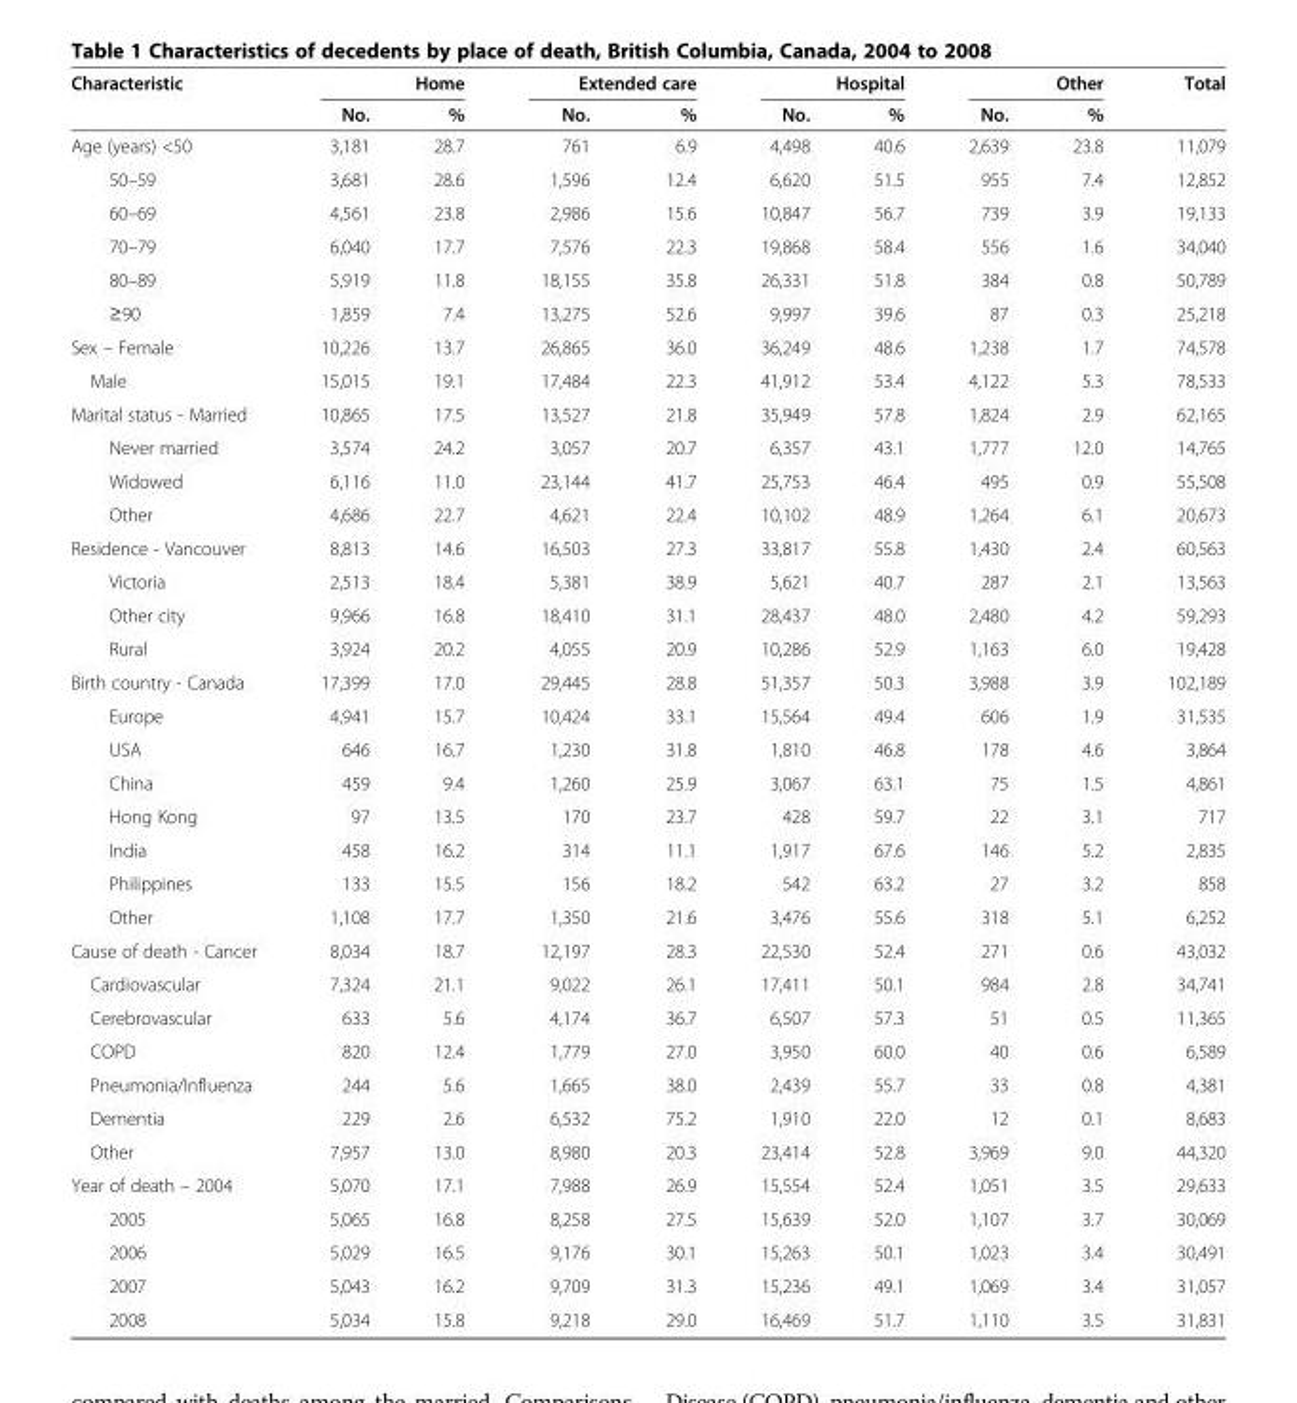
<table><thead><tr><td rowspan="2">Characteristic</td><td colspan="2">Home</td><td colspan="2">Extended care</td><td colspan="2">Hospital</td><td colspan="2">Other</td><td rowspan="2">Total</td></tr><tr><td>No.</td><td>%</td><td>No.</td><td>%</td><td>No.</td><td>%</td><td>No.</td><td>%</td></tr></thead><tbody><tr><td>Age (years) &lt;50</td><td>3,181</td><td>28.7</td><td>761</td><td>6.9</td><td>4,498</td><td>40.6</td><td>2,639</td><td>23.8</td><td>11,079</td></tr><tr><td>50–59</td><td>3,681</td><td>28.6</td><td>1,596</td><td>12.4</td><td>6,620</td><td>51.5</td><td>955</td><td>7.4</td><td>12,852</td></tr><tr><td>60–69</td><td>4,561</td><td>23.8</td><td>2,986</td><td>15.6</td><td>10,847</td><td>56.7</td><td>739</td><td>3.9</td><td>19,133</td></tr><tr><td>70–79</td><td>6,040</td><td>17.7</td><td>7,576</td><td>22.3</td><td>19,868</td><td>58.4</td><td>556</td><td>1.6</td><td>34,040</td></tr><tr><td>80–89</td><td>5,919</td><td>11.8</td><td>18,155</td><td>35.8</td><td>26,331</td><td>51.8</td><td>384</td><td>0.8</td><td>50,789</td></tr><tr><td>≥90</td><td>1,859</td><td>7.4</td><td>13,275</td><td>52.6</td><td>9,997</td><td>39.6</td><td>87</td><td>0.3</td><td>25,218</td></tr><tr><td>Sex – Female</td><td>10,226</td><td>13.7</td><td>26,865</td><td>36.0</td><td>36,249</td><td>48.6</td><td>1,238</td><td>1.7</td><td>74,578</td></tr><tr><td>Male</td><td>15,015</td><td>19.1</td><td>17,484</td><td>22.3</td><td>41,912</td><td>53.4</td><td>4,122</td><td>5.3</td><td>78,533</td></tr><tr><td>Marital status - Married</td><td>10,865</td><td>17.5</td><td>13,527</td><td>21.8</td><td>35,949</td><td>57.8</td><td>1,824</td><td>2.9</td><td>62,165</td></tr><tr><td>Never married</td><td>3,574</td><td>24.2</td><td>3,057</td><td>20.7</td><td>6,357</td><td>43.1</td><td>1,777</td><td>12.0</td><td>14,765</td></tr><tr><td>Widowed</td><td>6,116</td><td>11.0</td><td>23,144</td><td>41.7</td><td>25,753</td><td>46.4</td><td>495</td><td>0.9</td><td>55,508</td></tr><tr><td>Other</td><td>4,686</td><td>22.7</td><td>4,621</td><td>22.4</td><td>10,102</td><td>48.9</td><td>1,264</td><td>6.1</td><td>20,673</td></tr><tr><td>Residence - Vancouver</td><td>8,813</td><td>14.6</td><td>16,503</td><td>27.3</td><td>33,817</td><td>55.8</td><td>1,430</td><td>2.4</td><td>60,563</td></tr><tr><td>Victoria</td><td>2,513</td><td>18.4</td><td>5,381</td><td>38.9</td><td>5,621</td><td>40.7</td><td>287</td><td>2.1</td><td>13,563</td></tr><tr><td>Other city</td><td>9,966</td><td>16.8</td><td>18,410</td><td>31.1</td><td>28,437</td><td>48.0</td><td>2,480</td><td>4.2</td><td>59,293</td></tr><tr><td>Rural</td><td>3,924</td><td>20.2</td><td>4,055</td><td>20.9</td><td>10,286</td><td>52.9</td><td>1,163</td><td>6.0</td><td>19,428</td></tr><tr><td>Birth country - Canada</td><td>17,399</td><td>17.0</td><td>29,445</td><td>28.8</td><td>51,357</td><td>50.3</td><td>3,988</td><td>3.9</td><td>102,189</td></tr><tr><td>Europe</td><td>4,941</td><td>15.7</td><td>10,424</td><td>33.1</td><td>15,564</td><td>49.4</td><td>606</td><td>1.9</td><td>31,535</td></tr><tr><td>USA</td><td>646</td><td>16.7</td><td>1,230</td><td>31.8</td><td>1,810</td><td>46.8</td><td>178</td><td>4.6</td><td>3,864</td></tr><tr><td>China</td><td>459</td><td>9.4</td><td>1,260</td><td>25.9</td><td>3,067</td><td>63.1</td><td>75</td><td>1.5</td><td>4,861</td></tr><tr><td>Hong Kong</td><td>97</td><td>13.5</td><td>170</td><td>23.7</td><td>428</td><td>59.7</td><td>22</td><td>3.1</td><td>717</td></tr><tr><td>India</td><td>458</td><td>16.2</td><td>314</td><td>11.1</td><td>1,917</td><td>67.6</td><td>146</td><td>5.2</td><td>2,835</td></tr><tr><td>Philippines</td><td>133</td><td>15.5</td><td>156</td><td>18.2</td><td>542</td><td>63.2</td><td>27</td><td>3.2</td><td>858</td></tr><tr><td>Other</td><td>1,108</td><td>17.7</td><td>1,350</td><td>21.6</td><td>3,476</td><td>55.6</td><td>318</td><td>5.1</td><td>6,252</td></tr><tr><td>Cause of death - Cancer</td><td>8,034</td><td>18.7</td><td>12,197</td><td>28.3</td><td>22,530</td><td>52.4</td><td>271</td><td>0.6</td><td>43,032</td></tr><tr><td>Cardiovascular</td><td>7,324</td><td>21.1</td><td>9,022</td><td>26.1</td><td>17,411</td><td>50.1</td><td>984</td><td>2.8</td><td>34,741</td></tr><tr><td>Cerebrovascular</td><td>633</td><td>5.6</td><td>4,174</td><td>36.7</td><td>6,507</td><td>57.3</td><td>51</td><td>0.5</td><td>11,365</td></tr><tr><td>COPD</td><td>820</td><td>12.4</td><td>1,779</td><td>27.0</td><td>3,950</td><td>60.0</td><td>40</td><td>0.6</td><td>6,589</td></tr><tr><td>Pneumonia/Influenza</td><td>244</td><td>5.6</td><td>1,665</td><td>38.0</td><td>2,439</td><td>55.7</td><td>33</td><td>0.8</td><td>4,381</td></tr><tr><td>Dementia</td><td>229</td><td>2.6</td><td>6,532</td><td>75.2</td><td>1,910</td><td>22.0</td><td>12</td><td>0.1</td><td>8,683</td></tr><tr><td>Other</td><td>7,957</td><td>13.0</td><td>8,980</td><td>20.3</td><td>23,414</td><td>52.8</td><td>3,969</td><td>9.0</td><td>44,320</td></tr><tr><td>Year of death – 2004</td><td>5,070</td><td>17.1</td><td>7,988</td><td>26.9</td><td>15,554</td><td>52.4</td><td>1,051</td><td>3.5</td><td>29,633</td></tr><tr><td>2005</td><td>5,065</td><td>16.8</td><td>8,258</td><td>27.5</td><td>15,639</td><td>52.0</td><td>1,107</td><td>3.7</td><td>30,069</td></tr><tr><td>2006</td><td>5,029</td><td>16.5</td><td>9,176</td><td>30.1</td><td>15,263</td><td>50.1</td><td>1,023</td><td>3.4</td><td>30,491</td></tr><tr><td>2007</td><td>5,043</td><td>16.2</td><td>9,709</td><td>31.3</td><td>15,236</td><td>49.1</td><td>1,069</td><td>3.4</td><td>31,057</td></tr><tr><td>2008</td><td>5,034</td><td>15.8</td><td>9,218</td><td>29.0</td><td>16,469</td><td>51.7</td><td>1,110</td><td>3.5</td><td>31,831</td></tr></tbody></table>